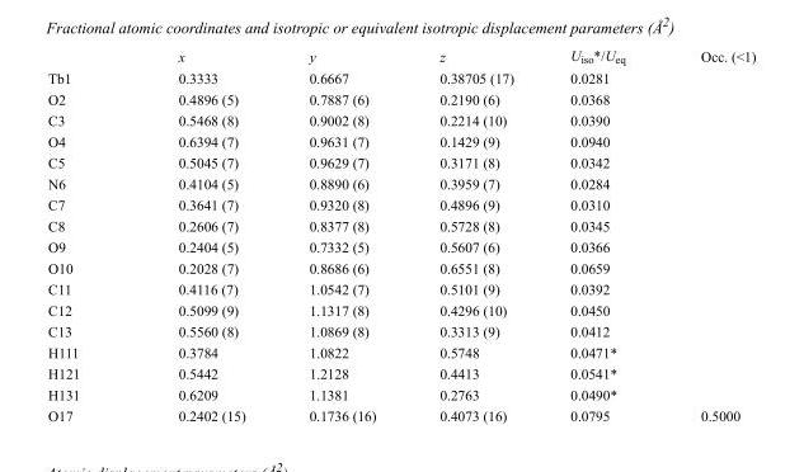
<table><thead><tr><td></td><td>x</td><td>y</td><td>z</td><td>U<sub>iso</sub>*/U<sub>eq</sub></td><td>Occ. (&lt;1)</td></tr></thead><tbody><tr><td>Tb1</td><td>0.3333</td><td>0.6667</td><td>0.38705 (17)</td><td>0.0281</td><td></td></tr><tr><td>O2</td><td>0.4896 (5)</td><td>0.7887 (6)</td><td>0.2190 (6)</td><td>0.0368</td><td></td></tr><tr><td>C3</td><td>0.5468 (8)</td><td>0.9002 (8)</td><td>0.2214 (10)</td><td>0.0390</td><td></td></tr><tr><td>O4</td><td>0.6394 (7)</td><td>0.9631 (7)</td><td>0.1429 (9)</td><td>0.0940</td><td></td></tr><tr><td>C5</td><td>0.5045 (7)</td><td>0.9629 (7)</td><td>0.3171 (8)</td><td>0.0342</td><td></td></tr><tr><td>N6</td><td>0.4104 (5)</td><td>0.8890 (6)</td><td>0.3959 (7)</td><td>0.0284</td><td></td></tr><tr><td>C7</td><td>0.3641 (7)</td><td>0.9320 (8)</td><td>0.4896 (9)</td><td>0.0310</td><td></td></tr><tr><td>C8</td><td>0.2606 (7)</td><td>0.8377 (8)</td><td>0.5728 (8)</td><td>0.0345</td><td></td></tr><tr><td>O9</td><td>0.2404 (5)</td><td>0.7332 (5)</td><td>0.5607 (6)</td><td>0.0366</td><td></td></tr><tr><td>O10</td><td>0.2028 (7)</td><td>0.8686 (6)</td><td>0.6551 (8)</td><td>0.0659</td><td></td></tr><tr><td>C11</td><td>0.4116 (7)</td><td>1.0542 (7)</td><td>0.5101 (9)</td><td>0.0392</td><td></td></tr><tr><td>C12</td><td>0.5099 (9)</td><td>1.1317 (8)</td><td>0.4296 (10)</td><td>0.0450</td><td></td></tr><tr><td>C13</td><td>0.5560 (8)</td><td>1.0869 (8)</td><td>0.3313 (9)</td><td>0.0412</td><td></td></tr><tr><td>H111</td><td>0.3784</td><td>1.0822</td><td>0.5748</td><td>0.0471*</td><td></td></tr><tr><td>H121</td><td>0.5442</td><td>1.2128</td><td>0.4413</td><td>0.0541*</td><td></td></tr><tr><td>H131</td><td>0.6209</td><td>1.1381</td><td>0.2763</td><td>0.0490*</td><td></td></tr><tr><td>O17</td><td>0.2402 (15)</td><td>0.1736 (16)</td><td>0.4073 (16)</td><td>0.0795</td><td>0.5000</td></tr></tbody></table>